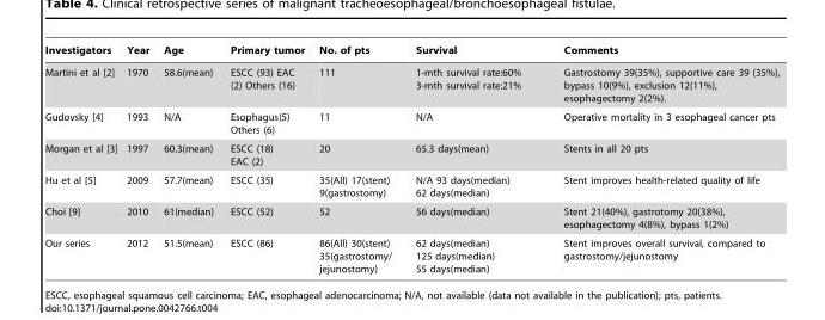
<table><thead><tr><td>Investigators</td><td>Year</td><td>Age</td><td>Primary tumor</td><td>No. of pts</td><td>Survival</td><td>Comments</td></tr></thead><tbody><tr><td>Martini et al [2]</td><td>1970</td><td>58.6(mean)</td><td>ESCC (93) EAC (2) Others (16)</td><td>111</td><td>1-mth survival rate:60% 3-mth survival rate:21%</td><td>Gastrostomy 39(35%), supportive care 39 (35%), bypass 10(9%), exclusion 12(11%), esophagectomy 2(2%).</td></tr><tr><td>Gudovsky [4]</td><td>1993</td><td>N/A</td><td>Esophagus(5) Others (6)</td><td>11</td><td>N/A</td><td>Operative mortality in 3 esophageal cancer pts</td></tr><tr><td>Morgan et al [3]</td><td>1997</td><td>60.3(mean)</td><td>ESCC (18) EAC (2)</td><td>20</td><td>65.3 days(mean)</td><td>Stents in all 20 pts</td></tr><tr><td>Hu et al [5]</td><td>2009</td><td>57.7(mean)</td><td>ESCC (35)</td><td>35(All) 17(stent) 9(gastrostomy)</td><td>N/A 93 days(median) 62 days(median)</td><td>Stent improves health-related quality of life</td></tr><tr><td>Choi [9]</td><td>2010</td><td>61(median)</td><td>ESCC (52)</td><td>52</td><td>56 days(median)</td><td>Stent 21(40%), gastrotomy 20(38%), esophagectomy 4(8%), bypass 1(2%)</td></tr><tr><td>Our series</td><td>2012</td><td>51.5(mean)</td><td>ESCC (86)</td><td>86(All) 30(stent) 35(gastrostomy/ jejunostomy)</td><td>62 days(median) 125 days(median) 55 days(median)</td><td>Stent improves overall survival, compared to gastrostomy/jejunostomy</td></tr></tbody></table>